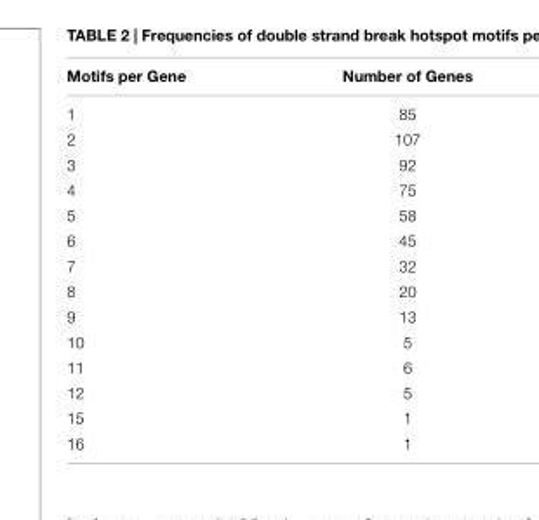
<table><thead><tr><td>Motifs per Gene</td><td>Number of Genes</td></tr></thead><tbody><tr><td>1</td><td>85</td></tr><tr><td>2</td><td>107</td></tr><tr><td>3</td><td>92</td></tr><tr><td>4</td><td>75</td></tr><tr><td>5</td><td>58</td></tr><tr><td>6</td><td>45</td></tr><tr><td>7</td><td>32</td></tr><tr><td>8</td><td>20</td></tr><tr><td>9</td><td>13</td></tr><tr><td>10</td><td>5</td></tr><tr><td>11</td><td>6</td></tr><tr><td>12</td><td>5</td></tr><tr><td>15</td><td>1</td></tr><tr><td>16</td><td>1</td></tr></tbody></table>